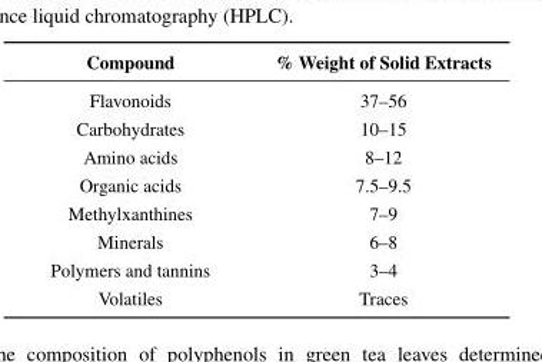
<table><thead><tr><td>Compound</td><td>% Weight of Solid Extracts</td></tr></thead><tbody><tr><td>Flavonoids</td><td>37–56</td></tr><tr><td>Carbohydrates</td><td>10–15</td></tr><tr><td>Amino acids</td><td>8–12</td></tr><tr><td>Organic acids</td><td>7.5–9.5</td></tr><tr><td>Methylxanthines</td><td>7–9</td></tr><tr><td>Minerals</td><td>6–8</td></tr><tr><td>Polymers and tannins</td><td>3–4</td></tr><tr><td>Volatiles</td><td>Traces</td></tr></tbody></table>